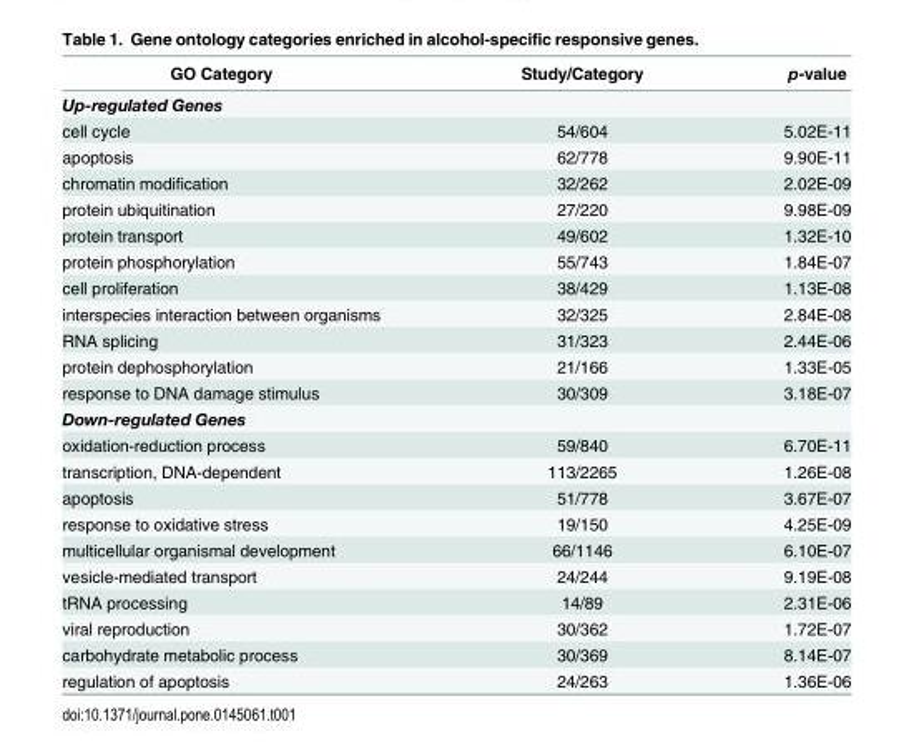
<table><thead><tr><td>GO Category</td><td>Study/Category</td><td>p-value</td></tr></thead><tbody><tr><td colspan="3">Up-regulated Genes</td></tr><tr><td>cell cycle</td><td>54/604</td><td>5.02E-11</td></tr><tr><td>apoptosis</td><td>62/778</td><td>9.90E-11</td></tr><tr><td>chromatin modification</td><td>32/262</td><td>2.02E-09</td></tr><tr><td>protein ubiquitination</td><td>27/220</td><td>9.98E-09</td></tr><tr><td>protein transport</td><td>49/602</td><td>1.32E-10</td></tr><tr><td>protein phosphorylation</td><td>55/743</td><td>1.84E-07</td></tr><tr><td>cell proliferation</td><td>38/429</td><td>1.13E-08</td></tr><tr><td>interspecies interaction between organisms</td><td>32/325</td><td>2.84E-08</td></tr><tr><td>RNA splicing</td><td>31/323</td><td>2.44E-06</td></tr><tr><td>protein dephosphorylation</td><td>21/166</td><td>1.33E-05</td></tr><tr><td>response to DNA damage stimulus</td><td>30/309</td><td>3.18E-07</td></tr><tr><td colspan="3">Down-regulated Genes</td></tr><tr><td>oxidation-reduction process</td><td>59/840</td><td>6.70E-11</td></tr><tr><td>transcription, DNA-dependent</td><td>113/2265</td><td>1.26E-08</td></tr><tr><td>apoptosis</td><td>51/778</td><td>3.67E-07</td></tr><tr><td>response to oxidative stress</td><td>19/150</td><td>4.25E-09</td></tr><tr><td>multicellular organismal development</td><td>66/1146</td><td>6.10E-07</td></tr><tr><td>vesicle-mediated transport</td><td>24/244</td><td>9.19E-08</td></tr><tr><td>tRNA processing</td><td>14/89</td><td>2.31E-06</td></tr><tr><td>viral reproduction</td><td>30/362</td><td>1.72E-07</td></tr><tr><td>carbohydrate metabolic process</td><td>30/369</td><td>8.14E-07</td></tr><tr><td>regulation of apoptosis</td><td>24/263</td><td>1.36E-06</td></tr></tbody></table>